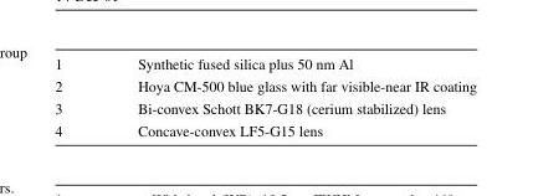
<table><tbody><tr><td>1</td><td>Synthetic fused silica plus 50 nm Al</td></tr><tr><td>2</td><td>Hoya CM-500 blue glass with far visible-near IR coating</td></tr><tr><td>3</td><td>Bi-convex Schott BK7-G18 (cerium stabilized) lens</td></tr><tr><td>4</td><td>Concave-convex LF5-G15 lens</td></tr></tbody></table>